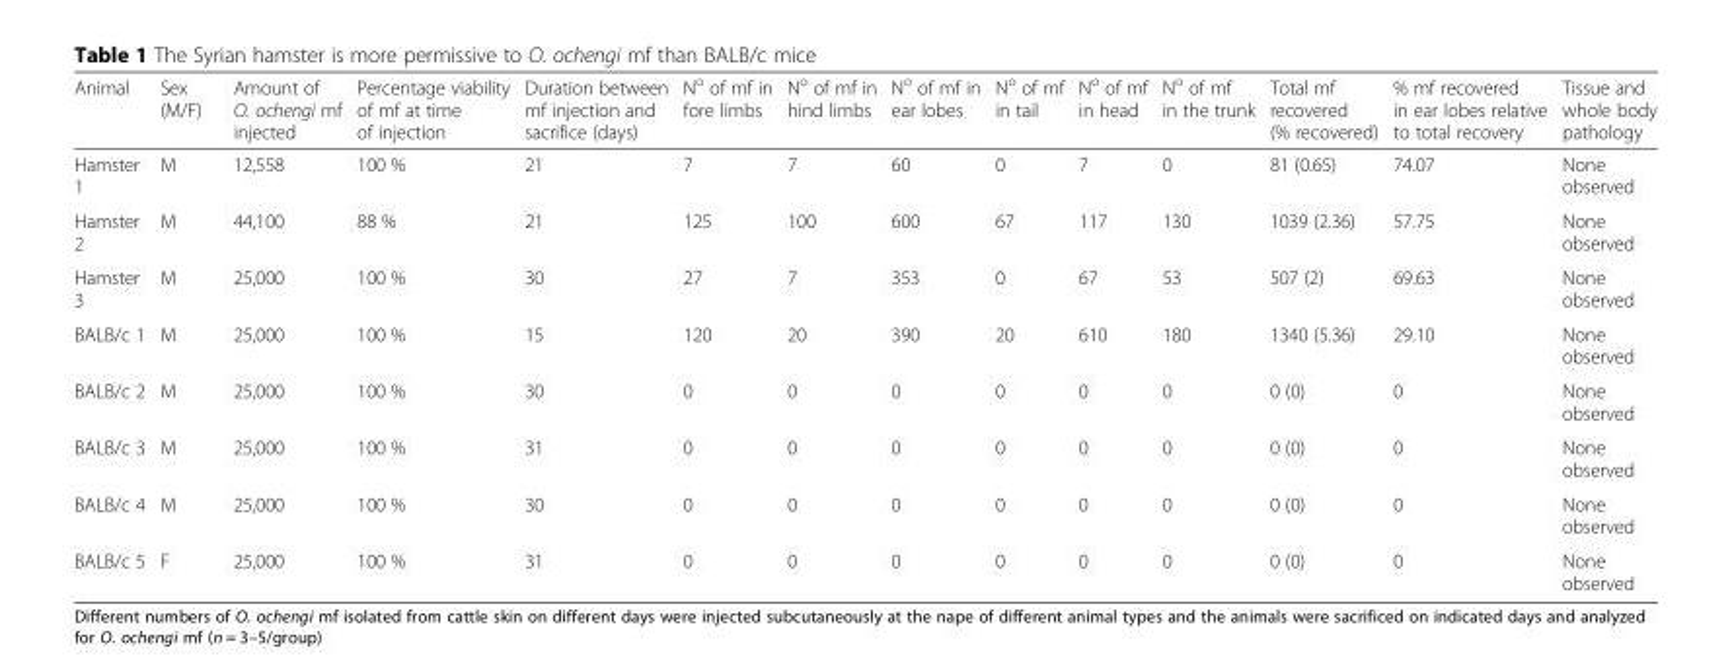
<table><thead><tr><td>Animal</td><td>Sex (M/F)</td><td>Amount of O. ochengi mf injected</td><td>Percentage viability of mf at time of injection</td><td>Duration between mf injection and sacrifice (days)</td><td>N<sup>o</sup> of mf in fore limbs</td><td>N<sup>o</sup> of mf in hind limbs</td><td>N<sup>o</sup> of mf in ear lobes</td><td>N<sup>o</sup> of mf in tail</td><td>N<sup>o</sup> of mf in head</td><td>N<sup>o</sup> of mf in the trunk</td><td>Total mf recovered (% recovered)</td><td>% mf recovered in ear lobes relative to total recovery</td><td>Tissue and whole body pathology</td></tr></thead><tbody><tr><td>Hamster 1</td><td>M</td><td>12,558</td><td>100 %</td><td>21</td><td>7</td><td>7</td><td>60</td><td>0</td><td>7</td><td>0</td><td>81 (0.65)</td><td>74.07</td><td>None observed</td></tr><tr><td>Hamster 2</td><td>M</td><td>44,100</td><td>88 %</td><td>21</td><td>125</td><td>100</td><td>600</td><td>67</td><td>117</td><td>130</td><td>1039 (2.36)</td><td>57.75</td><td>None observed</td></tr><tr><td>Hamster 3</td><td>M</td><td>25,000</td><td>100 %</td><td>30</td><td>27</td><td>7</td><td>353</td><td>0</td><td>67</td><td>53</td><td>507 (2)</td><td>69.63</td><td>None observed</td></tr><tr><td>BALB/c 1</td><td>M</td><td>25,000</td><td>100 %</td><td>15</td><td>120</td><td>20</td><td>390</td><td>20</td><td>610</td><td>180</td><td>1340 (5.36)</td><td>29.10</td><td>None observed</td></tr><tr><td>BALB/c 2</td><td>M</td><td>25,000</td><td>100 %</td><td>30</td><td>0</td><td>0</td><td>0</td><td>0</td><td>0</td><td>0</td><td>0 (0)</td><td>0</td><td>None observed</td></tr><tr><td>BALB/c 3</td><td>M</td><td>25,000</td><td>100 %</td><td>31</td><td>0</td><td>0</td><td>0</td><td>0</td><td>0</td><td>0</td><td>0 (0)</td><td>0</td><td>None observed</td></tr><tr><td>BALB/c 4</td><td>M</td><td>25,000</td><td>100 %</td><td>30</td><td>0</td><td>0</td><td>0</td><td>0</td><td>0</td><td>0</td><td>0 (0)</td><td>0</td><td>None observed</td></tr><tr><td>BALB/c 5</td><td>F</td><td>25,000</td><td>100 %</td><td>31</td><td>0</td><td>0</td><td>0</td><td>0</td><td>0</td><td>0</td><td>0 (0)</td><td>0</td><td>None observed</td></tr></tbody></table>